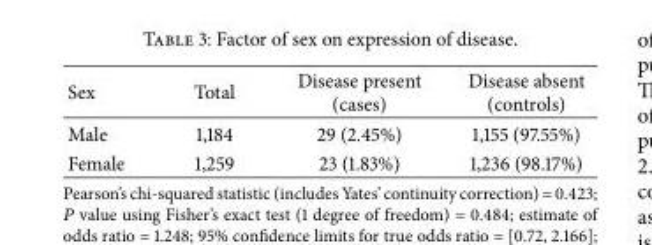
<table><thead><tr><td>Sex</td><td>Total</td><td>Disease present (cases)</td><td>Disease absent (controls)</td></tr></thead><tbody><tr><td>Male</td><td>1,184</td><td>29 (2.45%)</td><td>1,155 (97.55%)</td></tr><tr><td>Female</td><td>1,259</td><td>23 (1.83%)</td><td>1,236 (98.17%)</td></tr></tbody></table>